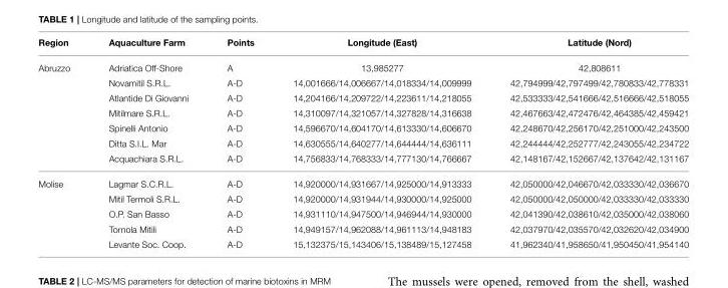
<table><thead><tr><td>Region</td><td>Aquaculture Farm</td><td>Points</td><td>Longitude (East)</td><td>Latitude (Nord)</td></tr></thead><tbody><tr><td rowspan="7">Abruzzo</td><td>Adriatica Off-Shore</td><td>A</td><td>13,985277</td><td>42,808611</td></tr><tr><td>Novamitil S.R.L.</td><td>A-D</td><td>14,001666/14,006667/14,018334/14,009999</td><td>42,794999/42,797499/42,780833/42,778331</td></tr><tr><td>Atlantide Di Giovanni</td><td>A-D</td><td>14,204166/14,209722/14,223611/14,218055</td><td>42,533333/42,541666/42,516666/42,518055</td></tr><tr><td>Mitilmare S.R.L.</td><td>A-D</td><td>14,310097/14,321057/14,327828/14,316638</td><td>42,467663/42,472476/42,464385/42,459421</td></tr><tr><td>Spinelli Antonio</td><td>A-D</td><td>14,596670/14,604170/14,613330/14,606670</td><td>42,248670/42,256170/42,251000/42,243500</td></tr><tr><td>Ditta S.I.L. Mar</td><td>A-D</td><td>14,630555/14,640277/14,644444/14,636111</td><td>42,244444/42,252777/42,243055/42,234722</td></tr><tr><td>Acquachiara S.R.L.</td><td>A-D</td><td>14,756833/14,768333/14,777130/14,766667</td><td>42,148167/42,152667/42,137642/42,131167</td></tr><tr><td rowspan="5">Molise</td><td>Lagmar S.C.R.L.</td><td>A-D</td><td>14,920000/14,931667/14,925000/14,913333</td><td>42,050000/42,046670/42,033330/42,036670</td></tr><tr><td>Mitil Termoli S.R.L.</td><td>A-D</td><td>14,920000/14,931944/14,930000/14,925000</td><td>42,050000/42,050000/42,033330/42,033330</td></tr><tr><td>O.P. San Basso</td><td>A-D</td><td>14,931110/14,947500/14,946944/14,930000</td><td>42,041390/42,038610/42,035000/42,038060</td></tr><tr><td>Tornola Mitili</td><td>A-D</td><td>14,949157/14,962088/14,961113/14,948183</td><td>42,037970/42,035570/42,032620/42,034900</td></tr><tr><td>Levante Soc. Coop.</td><td>A-D</td><td>15,132375/15,143406/15,138489/15,127458</td><td>41,962340/41,958650/41,950450/41,954140</td></tr></tbody></table>